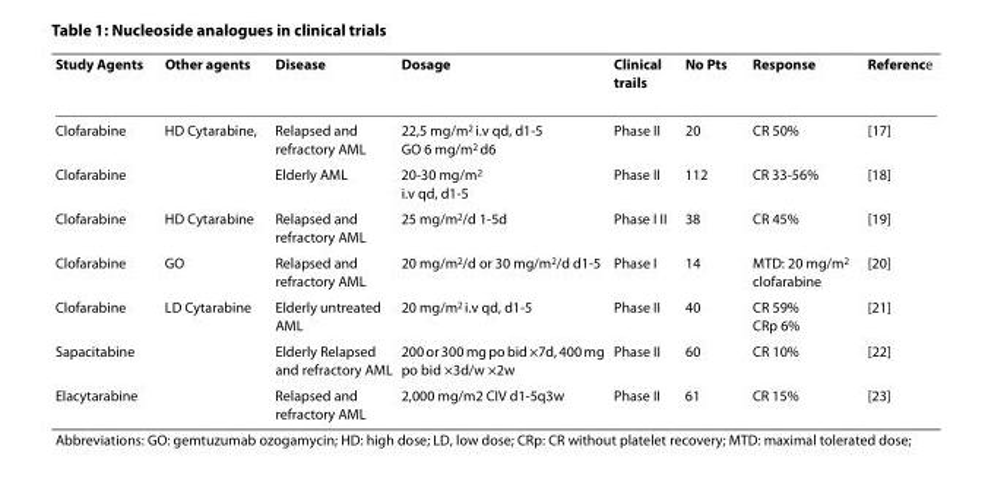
<table><thead><tr><td>Study Agents</td><td>Other agents</td><td>Disease</td><td>Dosage</td><td>Clinical trails</td><td>No Pts</td><td>Response</td><td>Reference</td></tr></thead><tbody><tr><td>Clofarabine</td><td>HD Cytarabine,</td><td>Relapsed and refractory AML</td><td>22,5 mg/m<sup>2</sup> i.v qd, d1-5 GO 6 mg/m<sup>2</sup> d6</td><td>Phase II</td><td>20</td><td>CR 50%</td><td>[17]</td></tr><tr><td>Clofarabine</td><td></td><td>Elderly AML</td><td>20-30 mg/m<sup>2</sup> i.v qd, d1-5</td><td>Phase II</td><td>112</td><td>CR 33-56%</td><td>[18]</td></tr><tr><td>Clofarabine</td><td>HD Cytarabine</td><td>Relapsed and refractory AML</td><td>25 mg/m<sup>2</sup>/d 1-5d</td><td>Phase I II</td><td>38</td><td>CR 45%</td><td>[19]</td></tr><tr><td>Clofarabine</td><td>GO</td><td>Relapsed and refractory AML</td><td>20 mg/m<sup>2</sup>/d or 30 mg/m<sup>2</sup>/d d1-5</td><td>Phase I</td><td>14</td><td>MTD: 20 mg/m<sup>2</sup> clofarabine</td><td>[20]</td></tr><tr><td>Clofarabine</td><td>LD Cytarabine</td><td>Elderly untreated AML</td><td>20 mg/m<sup>2</sup> i.v qd, d1-5</td><td>Phase II</td><td>40</td><td>CR 59% CRp 6%</td><td>[21]</td></tr><tr><td>Sapacitabine</td><td></td><td>Elderly Relapsed and refractory AML</td><td>200 or 300 mg po bid ×7d, 400 mg po bid ×3d/w ×2w</td><td>Phase II</td><td>60</td><td>CR 10%</td><td>[22]</td></tr><tr><td>Elacytarabine</td><td></td><td>Relapsed and refractory AML</td><td>2,000 mg/m2 CIV d1-5q3w</td><td>Phase II</td><td>61</td><td>CR 15%</td><td>[23]</td></tr></tbody></table>